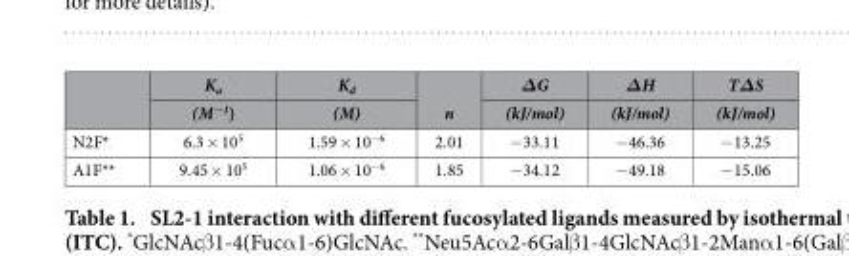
<table><thead><tr><td rowspan="2"></td><td rowspan="2">K<sub>a</sub> (M<sup>−1</sup>)</td><td rowspan="2">K<sub>d</sub> (M)</td><td rowspan="2">n</td><td rowspan="2">ΔG (kJ/mol)</td><td rowspan="2">ΔH (kJ/mol)</td><td rowspan="2">TΔS (kJ/mol)</td></tr><tr></tr></thead><tbody><tr><td>N2F*</td><td>6.3 × 10<sup>5</sup></td><td>1.59 × 10<sup>−6</sup></td><td>2.01</td><td>− 33.11</td><td>− 46.36</td><td>− 13.25</td></tr><tr><td>A1F**</td><td>9.45 × 10<sup>5</sup></td><td>1.06 × 10<sup>−6</sup></td><td>1.85</td><td>− 34.12</td><td>− 49.18</td><td>− 15.06</td></tr></tbody></table>